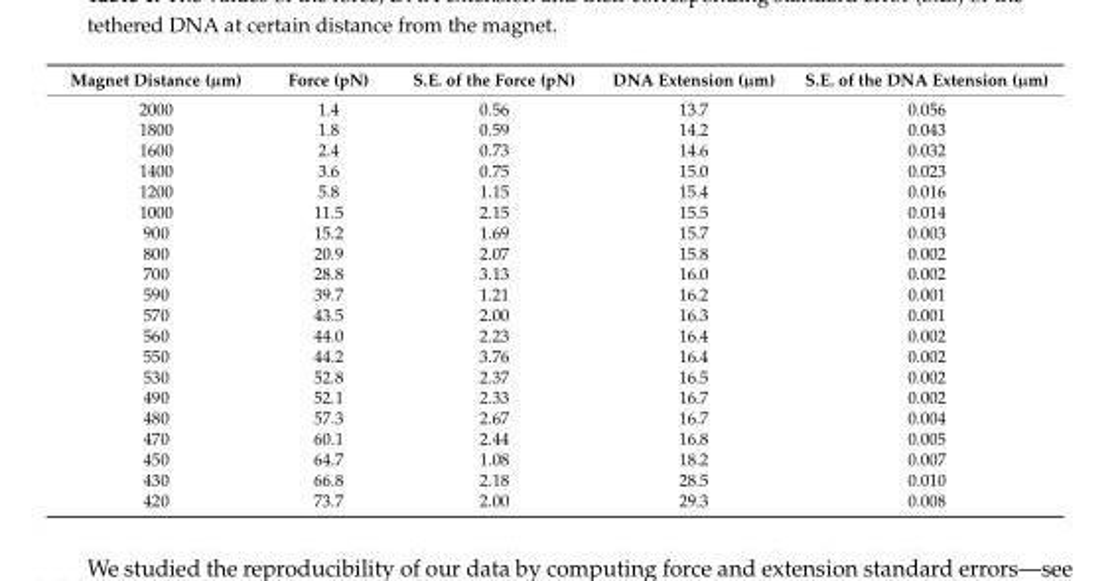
<table><thead><tr><td>Magnet Distance (µm)</td><td>Force (pN)</td><td>S.E. of the Force (pN)</td><td>DNA Extension (µm)</td><td>S.E. of the DNA Extension (µm)</td></tr></thead><tbody><tr><td>2000</td><td>1.4</td><td>0.56</td><td>13.7</td><td>0.056</td></tr><tr><td>1800</td><td>1.8</td><td>0.59</td><td>14.2</td><td>0.043</td></tr><tr><td>1600</td><td>2.4</td><td>0.73</td><td>14.6</td><td>0.032</td></tr><tr><td>1400</td><td>3.6</td><td>0.75</td><td>15.0</td><td>0.023</td></tr><tr><td>1200</td><td>5.8</td><td>1.15</td><td>15.4</td><td>0.016</td></tr><tr><td>1000</td><td>11.5</td><td>2.15</td><td>15.5</td><td>0.014</td></tr><tr><td>900</td><td>15.2</td><td>1.69</td><td>15.7</td><td>0.003</td></tr><tr><td>800</td><td>20.9</td><td>2.07</td><td>15.8</td><td>0.002</td></tr><tr><td>700</td><td>28.8</td><td>3.13</td><td>16.0</td><td>0.002</td></tr><tr><td>590</td><td>39.7</td><td>1.21</td><td>16.2</td><td>0.001</td></tr><tr><td>570</td><td>43.5</td><td>2.00</td><td>16.3</td><td>0.001</td></tr><tr><td>560</td><td>44.0</td><td>2.23</td><td>16.4</td><td>0.002</td></tr><tr><td>550</td><td>44.2</td><td>3.76</td><td>16.4</td><td>0.002</td></tr><tr><td>530</td><td>52.8</td><td>2.37</td><td>16.5</td><td>0.002</td></tr><tr><td>490</td><td>52.1</td><td>2.33</td><td>16.7</td><td>0.002</td></tr><tr><td>480</td><td>57.3</td><td>2.67</td><td>16.7</td><td>0.004</td></tr><tr><td>470</td><td>60.1</td><td>2.44</td><td>16.8</td><td>0.005</td></tr><tr><td>450</td><td>64.7</td><td>1.08</td><td>18.2</td><td>0.007</td></tr><tr><td>430</td><td>66.8</td><td>2.18</td><td>28.5</td><td>0.010</td></tr><tr><td>420</td><td>73.7</td><td>2.00</td><td>29.3</td><td>0.008</td></tr></tbody></table>